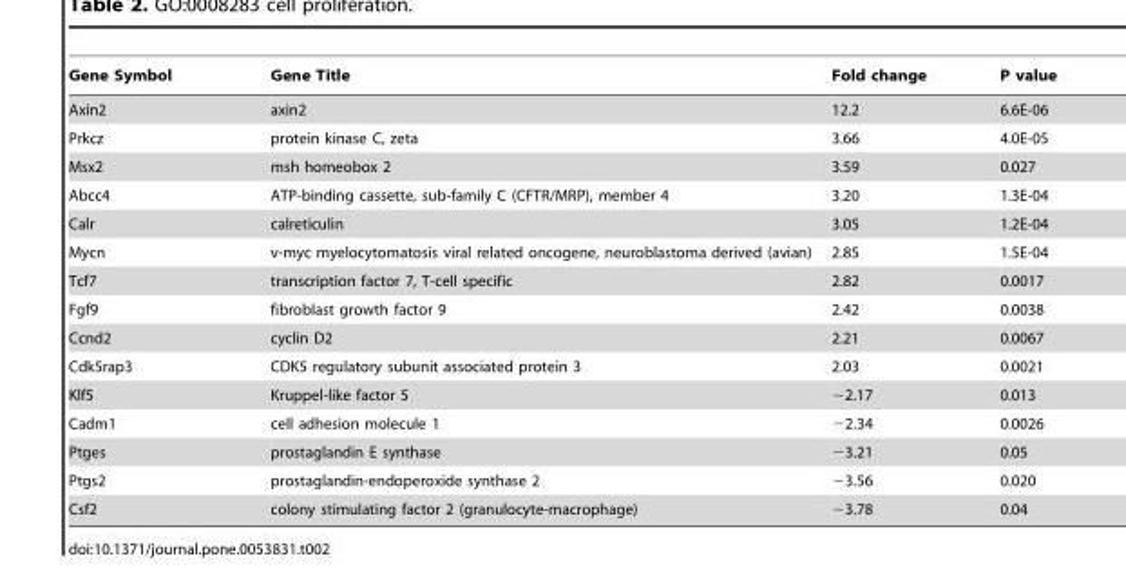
<table><thead><tr><td>Gene Symbol</td><td>Gene Title</td><td>Fold change</td><td>P value</td></tr></thead><tbody><tr><td>Axin2</td><td>axin2</td><td>12.2</td><td>6.6E-06</td></tr><tr><td>Prkcz</td><td>protein kinase C, zeta</td><td>3.66</td><td>4.0E-05</td></tr><tr><td>Msx2</td><td>msh homeobox 2</td><td>3.59</td><td>0.027</td></tr><tr><td>Abcc4</td><td>ATP-binding cassette, sub-family C (CFTR/MRP), member 4</td><td>3.20</td><td>1.3E-04</td></tr><tr><td>Calr</td><td>calreticulin</td><td>3.05</td><td>1.2E-04</td></tr><tr><td>Mycn</td><td>v-myc myelocytomatosis viral related oncogene, neuroblastoma derived (avian)</td><td>2.85</td><td>1.5E-04</td></tr><tr><td>Tcf7</td><td>transcription factor 7, T-cell specific</td><td>2.82</td><td>0.0017</td></tr><tr><td>Fgf9</td><td>fibroblast growth factor 9</td><td>2.42</td><td>0.0038</td></tr><tr><td>Ccnd2</td><td>cyclin D2</td><td>2.21</td><td>0.0067</td></tr><tr><td>Cdk5rap3</td><td>CDK5 regulatory subunit associated protein 3</td><td>2.03</td><td>0.0021</td></tr><tr><td>Klf5</td><td>Kruppel-like factor 5</td><td>−2.17</td><td>0.013</td></tr><tr><td>Cadm1</td><td>cell adhesion molecule 1</td><td>−2.34</td><td>0.0026</td></tr><tr><td>Ptges</td><td>prostaglandin E synthase</td><td>−3.21</td><td>0.05</td></tr><tr><td>Ptgs2</td><td>prostaglandin-endoperoxide synthase 2</td><td>−3.56</td><td>0.020</td></tr><tr><td>Csf2</td><td>colony stimulating factor 2 (granulocyte-macrophage)</td><td>−3.78</td><td>0.04</td></tr></tbody></table>